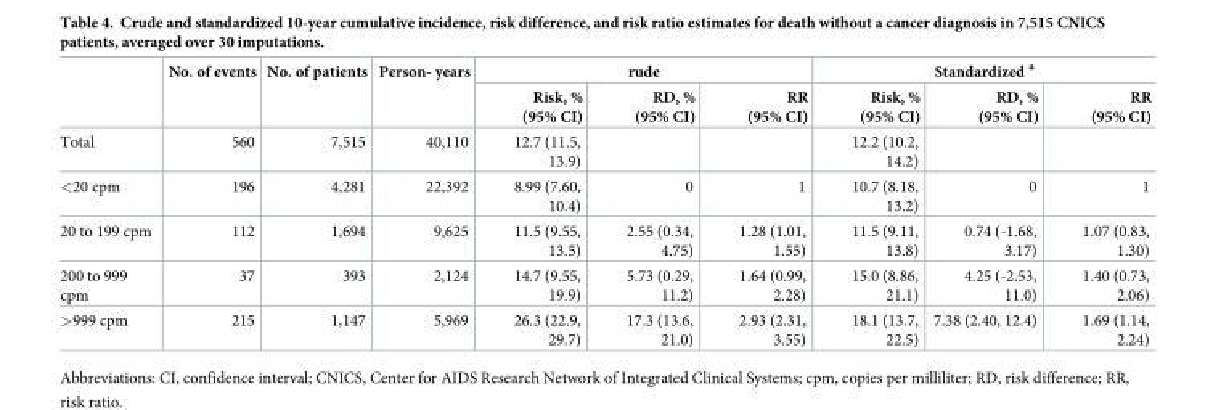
<table><thead><tr><td rowspan="2"></td><td rowspan="2">No. of events</td><td rowspan="2">No. of patients</td><td rowspan="2">Person- years</td><td colspan="3">rude</td><td colspan="3">Standardized <sup>a</sup></td></tr><tr><td>Risk, % (95% CI)</td><td>RD, % (95% CI)</td><td>RR (95% CI)</td><td>Risk, % (95% CI)</td><td>RD, % (95% CI)</td><td>RR (95% CI)</td></tr></thead><tbody><tr><td>Total</td><td>560</td><td>7,515</td><td>40,110</td><td>12.7 (11.5, 13.9)</td><td></td><td></td><td>12.2 (10.2, 14.2)</td><td></td><td></td></tr><tr><td>&lt;20 cpm</td><td>196</td><td>4,281</td><td>22,392</td><td>8.99 (7.60, 10.4)</td><td>0</td><td>1</td><td>10.7 (8.18, 13.2)</td><td>0</td><td>1</td></tr><tr><td>20 to 199 cpm</td><td>112</td><td>1,694</td><td>9,625</td><td>11.5 (9.55, 13.5)</td><td>2.55 (0.34, 4.75)</td><td>1.28 (1.01, 1.55)</td><td>11.5 (9.11, 13.8)</td><td>0.74 (-1.68, 3.17)</td><td>1.07 (0.83, 1.30)</td></tr><tr><td>200 to 999 cpm</td><td>37</td><td>393</td><td>2,124</td><td>14.7 (9.55, 19.9)</td><td>5.73 (0.29, 11.2)</td><td>1.64 (0.99, 2.28)</td><td>15.0 (8.86, 21.1)</td><td>4.25 (-2.53, 11.0)</td><td>1.40 (0.73, 2.06)</td></tr><tr><td>&gt;999 cpm</td><td>215</td><td>1,147</td><td>5,969</td><td>26.3 (22.9, 29.7)</td><td>17.3 (13.6, 21.0)</td><td>2.93 (2.31, 3.55)</td><td>18.1 (13.7, 22.5)</td><td>7.38 (2.40, 12.4)</td><td>1.69 (1.14, 2.24)</td></tr></tbody></table>